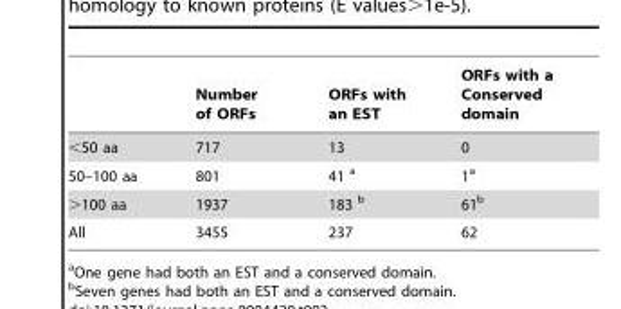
<table><thead><tr><td></td><td>Number of ORFs</td><td>ORFs with an EST</td><td>ORFs with a Conserved domain</td></tr></thead><tbody><tr><td>&lt;50 aa</td><td>717</td><td>13</td><td>0</td></tr><tr><td>50–100 aa</td><td>801</td><td>41 a</td><td>1<sup>a</sup></td></tr><tr><td>&gt;100 aa</td><td>1937</td><td>183 b</td><td>61<sup>b</sup></td></tr><tr><td>All</td><td>3455</td><td>237</td><td>62</td></tr></tbody></table>